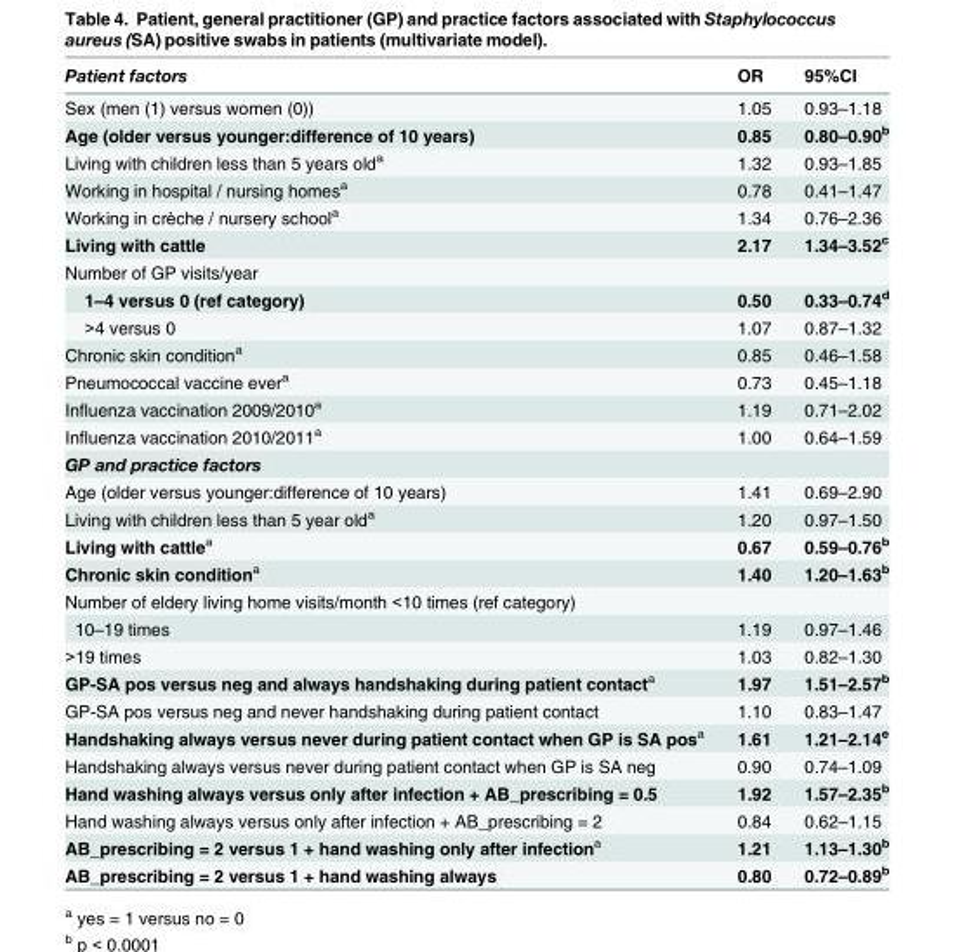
<table><thead><tr><td>Patient factors</td><td>OR</td><td>95%CI</td></tr></thead><tbody><tr><td>Sex (men (1) versus women (0))</td><td>1.05</td><td>0.93–1.18</td></tr><tr><td>Age (older versus younger:difference of 10 years)</td><td>0.85</td><td>0.80–0.90<sup>b</sup></td></tr><tr><td>Living with children less than 5 years old<sup>a</sup></td><td>1.32</td><td>0.93–1.85</td></tr><tr><td>Working in hospital / nursing homes<sup>a</sup></td><td>0.78</td><td>0.41–1.47</td></tr><tr><td>Working in crèche / nursery school<sup>a</sup></td><td>1.34</td><td>0.76–2.36</td></tr><tr><td>Living with cattle</td><td>2.17</td><td>1.34–3.52<sup>c</sup></td></tr><tr><td colspan="3">Number of GP visits/year</td></tr><tr><td>1–4 versus 0 (ref category)</td><td>0.50</td><td>0.33–0.74<sup>d</sup></td></tr><tr><td>&gt;4 versus 0</td><td>1.07</td><td>0.87–1.32</td></tr><tr><td>Chronic skin condition<sup>a</sup></td><td>0.85</td><td>0.46–1.58</td></tr><tr><td>Pneumococcal vaccine ever<sup>a</sup></td><td>0.73</td><td>0.45–1.18</td></tr><tr><td>Influenza vaccination 2009/2010<sup>a</sup></td><td>1.19</td><td>0.71–2.02</td></tr><tr><td>Influenza vaccination 2010/2011<sup>a</sup></td><td>1.00</td><td>0.64–1.59</td></tr><tr><td colspan="3">GP and practice factors</td></tr><tr><td>Age (older versus younger:difference of 10 years)</td><td>1.41</td><td>0.69–2.90</td></tr><tr><td>Living with children less than 5 year old<sup>a</sup></td><td>1.20</td><td>0.97–1.50</td></tr><tr><td>Living with cattle<sup>a</sup></td><td>0.67</td><td>0.59–0.76<sup>b</sup></td></tr><tr><td>Chronic skin condition<sup>a</sup></td><td>1.40</td><td>1.20–1.63<sup>b</sup></td></tr><tr><td colspan="3">Number of eldery living home visits/month &lt;10 times (ref category)</td></tr><tr><td>10–19 times</td><td>1.19</td><td>0.97–1.46</td></tr><tr><td>&gt;19 times</td><td>1.03</td><td>0.82–1.30</td></tr><tr><td>GP-SA pos versus neg and always handshaking during patient contact<sup>a</sup></td><td>1.97</td><td>1.51–2.57<sup>b</sup></td></tr><tr><td>GP-SA pos versus neg and never handshaking during patient contact</td><td>1.10</td><td>0.83–1.47</td></tr><tr><td>Handshaking always versus never during patient contact when GP is SA pos<sup>a</sup></td><td>1.61</td><td>1.21–2.14<sup>e</sup></td></tr><tr><td>Handshaking always versus never during patient contact when GP is SA neg</td><td>0.90</td><td>0.74–1.09</td></tr><tr><td>Hand washing always versus only after infection + AB_prescribing = 0.5</td><td>1.92</td><td>1.57–2.35<sup>b</sup></td></tr><tr><td>Hand washing always versus only after infection + AB_prescribing = 2</td><td>0.84</td><td>0.62–1.15</td></tr><tr><td>AB_prescribing = 2 versus 1 + hand washing only after infection<sup>a</sup></td><td>1.21</td><td>1.13–1.30<sup>b</sup></td></tr><tr><td>AB_prescribing = 2 versus 1 + hand washing always</td><td>0.80</td><td>0.72–0.89<sup>b</sup></td></tr></tbody></table>